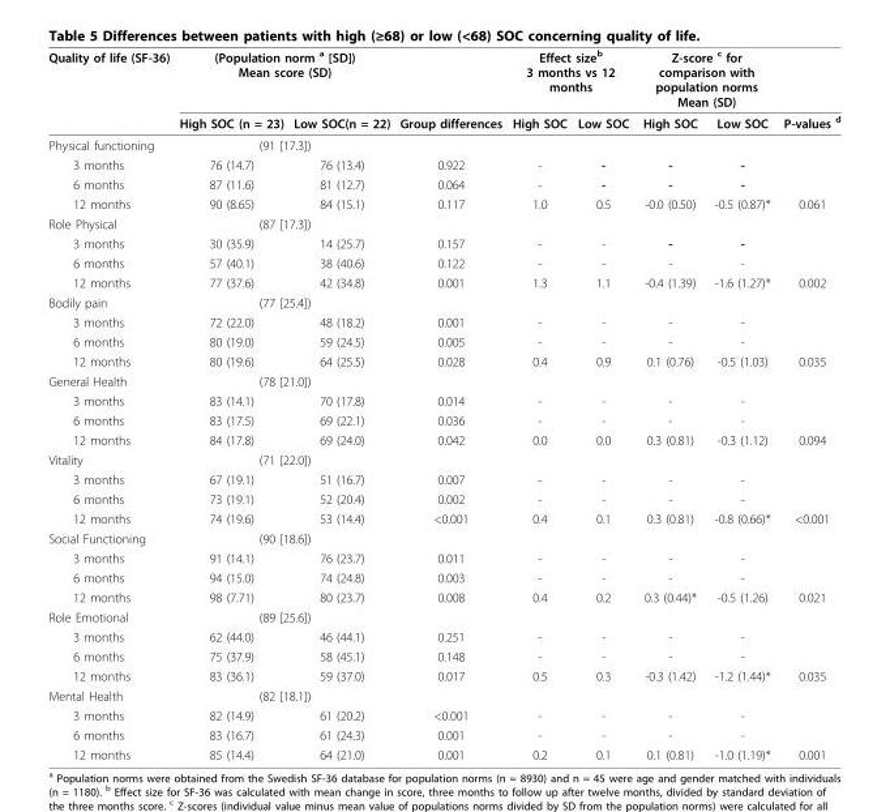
<table><thead><tr><td rowspan="2">Quality of life (SF-36)</td><td colspan="2">(Population norm <sup>a</sup> [SD]) Mean score (SD)</td><td rowspan="2">Group differences</td><td colspan="2">Effect size<sup>b</sup> 3 months vs 12 months</td><td colspan="2">Z-score <sup>c</sup> for comparison with population norms Mean (SD)</td><td rowspan="2">P-values <sup>d</sup></td></tr><tr><td>High SOC (n = 23)</td><td>Low SOC(n = 22)</td><td>High SOC</td><td>Low SOC</td><td>High SOC</td><td>Low SOC</td></tr></thead><tbody><tr><td>Physical functioning</td><td colspan="2">(91 [17.3])</td><td></td><td></td><td></td><td></td><td></td><td></td></tr><tr><td>3 months</td><td>76 (14.7)</td><td>76 (13.4)</td><td>0.922</td><td>-</td><td>-</td><td>-</td><td>-</td><td></td></tr><tr><td>6 months</td><td>87 (11.6)</td><td>81 (12.7)</td><td>0.064</td><td>-</td><td>-</td><td>-</td><td>-</td><td></td></tr><tr><td>12 months</td><td>90 (8.65)</td><td>84 (15.1)</td><td>0.117</td><td>1.0</td><td>0.5</td><td>-0.0 (0.50)</td><td>-0.5 (0.87)*</td><td>0.061</td></tr><tr><td>Role Physical</td><td colspan="2">(87 [17.3])</td><td></td><td></td><td></td><td></td><td></td><td></td></tr><tr><td>3 months</td><td>30 (35.9)</td><td>14 (25.7)</td><td>0.157</td><td>-</td><td>-</td><td>-</td><td>-</td><td></td></tr><tr><td>6 months</td><td>57 (40.1)</td><td>38 (40.6)</td><td>0.122</td><td>-</td><td>-</td><td>-</td><td>-</td><td></td></tr><tr><td>12 months</td><td>77 (37.6)</td><td>42 (34.8)</td><td>0.001</td><td>1.3</td><td>1.1</td><td>-0.4 (1.39)</td><td>-1.6 (1.27)*</td><td>0.002</td></tr><tr><td>Bodily pain</td><td colspan="2">(77 [25.4])</td><td></td><td></td><td></td><td></td><td></td><td></td></tr><tr><td>3 months</td><td>72 (22.0)</td><td>48 (18.2)</td><td>0.001</td><td>-</td><td>-</td><td>-</td><td>-</td><td></td></tr><tr><td>6 months</td><td>80 (19.0)</td><td>59 (24.5)</td><td>0.005</td><td>-</td><td>-</td><td>-</td><td>-</td><td></td></tr><tr><td>12 months</td><td>80 (19.6)</td><td>64 (25.5)</td><td>0.028</td><td>0.4</td><td>0.9</td><td>0.1 (0.76)</td><td>-0.5 (1.03)</td><td>0.035</td></tr><tr><td>General Health</td><td colspan="2">(78 [21.0])</td><td></td><td></td><td></td><td></td><td></td><td></td></tr><tr><td>3 months</td><td>83 (14.1)</td><td>70 (17.8)</td><td>0.014</td><td>-</td><td>-</td><td>-</td><td>-</td><td></td></tr><tr><td>6 months</td><td>83 (17.5)</td><td>69 (22.1)</td><td>0.036</td><td>-</td><td>-</td><td>-</td><td>-</td><td></td></tr><tr><td>12 months</td><td>84 (17.8)</td><td>69 (24.0)</td><td>0.042</td><td>0.0</td><td>0.0</td><td>0.3 (0.81)</td><td>-0.3 (1.12)</td><td>0.094</td></tr><tr><td>Vitality</td><td colspan="2">(71 [22.0])</td><td></td><td></td><td></td><td></td><td></td><td></td></tr><tr><td>3 months</td><td>67 (19.1)</td><td>51 (16.7)</td><td>0.007</td><td>-</td><td>-</td><td>-</td><td>-</td><td></td></tr><tr><td>6 months</td><td>73 (19.1)</td><td>52 (20.4)</td><td>0.002</td><td>-</td><td>-</td><td>-</td><td>-</td><td></td></tr><tr><td>12 months</td><td>74 (19.6)</td><td>53 (14.4)</td><td>&lt;0.001</td><td>0.4</td><td>0.1</td><td>0.3 (0.81)</td><td>-0.8 (0.66)*</td><td>&lt;0.001</td></tr><tr><td>Social Functioning</td><td colspan="2">(90 [18.6])</td><td></td><td></td><td></td><td></td><td></td><td></td></tr><tr><td>3 months</td><td>91 (14.1)</td><td>76 (23.7)</td><td>0.011</td><td>-</td><td>-</td><td>-</td><td>-</td><td></td></tr><tr><td>6 months</td><td>94 (15.0)</td><td>74 (24.8)</td><td>0.003</td><td>-</td><td>-</td><td>-</td><td>-</td><td></td></tr><tr><td>12 months</td><td>98 (7.71)</td><td>80 (23.7)</td><td>0.008</td><td>0.4</td><td>0.2</td><td>0.3 (0.44)*</td><td>-0.5 (1.26)</td><td>0.021</td></tr><tr><td>Role Emotional</td><td colspan="2">(89 [25.6])</td><td></td><td></td><td></td><td></td><td></td><td></td></tr><tr><td>3 months</td><td>62 (44.0)</td><td>46 (44.1)</td><td>0.251</td><td>-</td><td>-</td><td>-</td><td>-</td><td></td></tr><tr><td>6 months</td><td>75 (37.9)</td><td>58 (45.1)</td><td>0.148</td><td>-</td><td>-</td><td>-</td><td>-</td><td></td></tr><tr><td>12 months</td><td>83 (36.1)</td><td>59 (37.0)</td><td>0.017</td><td>0.5</td><td>0.3</td><td>-0.3 (1.42)</td><td>-1.2 (1.44)*</td><td>0.035</td></tr><tr><td>Mental Health</td><td colspan="2">(82 [18.1])</td><td></td><td></td><td></td><td></td><td></td><td></td></tr><tr><td>3 months</td><td>82 (14.9)</td><td>61 (20.2)</td><td>&lt;0.001</td><td>-</td><td>-</td><td>-</td><td>-</td><td></td></tr><tr><td>6 months</td><td>83 (16.7)</td><td>61 (24.3)</td><td>0.001</td><td>-</td><td>-</td><td>-</td><td>-</td><td></td></tr><tr><td>12 months</td><td>85 (14.4)</td><td>64 (21.0)</td><td>0.001</td><td>0.2</td><td>0.1</td><td>0.1 (0.81)</td><td>-1.0 (1.19)*</td><td>0.001</td></tr></tbody></table>